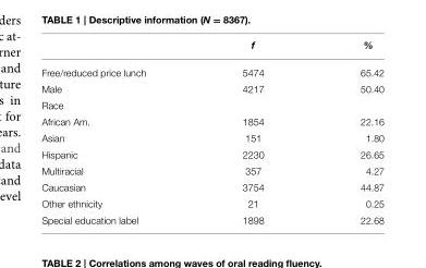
<table><thead><tr><td></td><td>f</td><td>%</td></tr></thead><tbody><tr><td>Free/reduced price lunch</td><td>5474</td><td>65.42</td></tr><tr><td>Male</td><td>4217</td><td>50.40</td></tr><tr><td colspan="3">Race</td></tr><tr><td>African Am.</td><td>1854</td><td>22.16</td></tr><tr><td>Asian</td><td>151</td><td>1.80</td></tr><tr><td>Hispanic</td><td>2230</td><td>26.65</td></tr><tr><td>Multiracial</td><td>357</td><td>4.27</td></tr><tr><td>Caucasian</td><td>3754</td><td>44.87</td></tr><tr><td>Other ethnicity</td><td>21</td><td>0.25</td></tr><tr><td>Special education label</td><td>1898</td><td>22.68</td></tr></tbody></table>